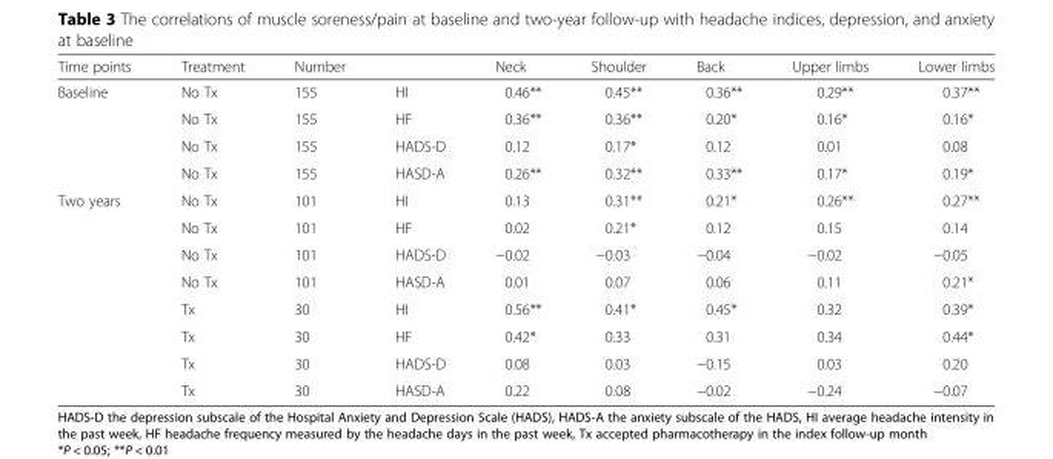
<table><thead><tr><td>Time points</td><td>Treatment</td><td>Number</td><td></td><td>Neck</td><td>Shoulder</td><td>Back</td><td>Upper limbs</td><td>Lower limbs</td></tr></thead><tbody><tr><td rowspan="4">Baseline</td><td>No Tx</td><td>155</td><td>HI</td><td>0.46**</td><td>0.45**</td><td>0.36**</td><td>0.29**</td><td>0.37**</td></tr><tr><td>No Tx</td><td>155</td><td>HF</td><td>0.36**</td><td>0.36**</td><td>0.20*</td><td>0.16*</td><td>0.16*</td></tr><tr><td>No Tx</td><td>155</td><td>HADS-D</td><td>0.12</td><td>0.17*</td><td>0.12</td><td>0.01</td><td>0.08</td></tr><tr><td>No Tx</td><td>155</td><td>HASD-A</td><td>0.26**</td><td>0.32**</td><td>0.33**</td><td>0.17*</td><td>0.19*</td></tr><tr><td rowspan="8">Two years</td><td>No Tx</td><td>101</td><td>HI</td><td>0.13</td><td>0.31**</td><td>0.21*</td><td>0.26**</td><td>0.27**</td></tr><tr><td>No Tx</td><td>101</td><td>HF</td><td>0.02</td><td>0.21*</td><td>0.12</td><td>0.15</td><td>0.14</td></tr><tr><td>No Tx</td><td>101</td><td>HADS-D</td><td>−0.02</td><td>−0.03</td><td>−0.04</td><td>−0.02</td><td>−0.05</td></tr><tr><td>No Tx</td><td>101</td><td>HASD-A</td><td>0.01</td><td>0.07</td><td>0.06</td><td>0.11</td><td>0.21*</td></tr><tr><td>Tx</td><td>30</td><td>HI</td><td>0.56**</td><td>0.41*</td><td>0.45*</td><td>0.32</td><td>0.39*</td></tr><tr><td>Tx</td><td>30</td><td>HF</td><td>0.42*</td><td>0.33</td><td>0.31</td><td>0.34</td><td>0.44*</td></tr><tr><td>Tx</td><td>30</td><td>HADS-D</td><td>0.08</td><td>0.03</td><td>−0.15</td><td>0.03</td><td>0.20</td></tr><tr><td>Tx</td><td>30</td><td>HASD-A</td><td>0.22</td><td>0.08</td><td>−0.02</td><td>−0.24</td><td>−0.07</td></tr></tbody></table>